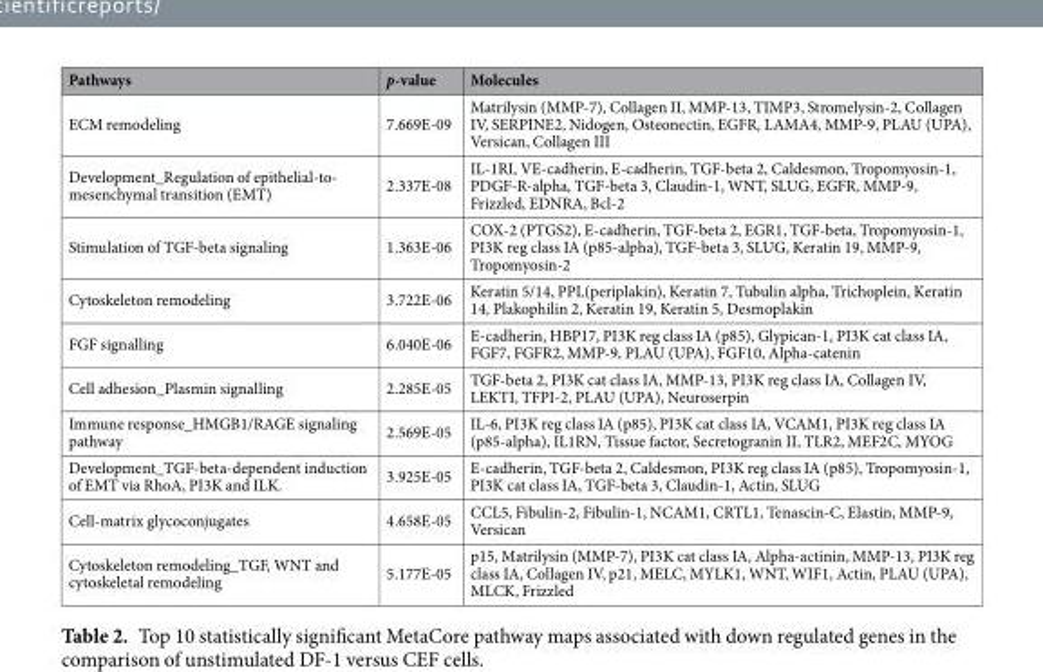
<table><thead><tr><td>Pathways</td><td>p-value</td><td>Molecules</td></tr></thead><tbody><tr><td>ECM remodeling</td><td>7.669E-09</td><td>Matrilysin (MMP-7), Collagen II, MMP-13, TIMP3, Stromelysin-2, Collagen IV, SERPINE2, Nidogen, Osteonectin, EGFR, LAMA4, MMP-9, PLAU (UPA), Versican, Collagen III</td></tr><tr><td>Development_Regulation of epithelial-to- mesenchymal transition (EMT)</td><td>2.337E-08</td><td>IL-1RI, VE-cadherin, E-cadherin, TGF-beta 2, Caldesmon, Tropomyosin-1, PDGF-R-alpha, TGF-beta 3, Claudin-1, WNT, SLUG, EGFR, MMP-9, Frizzled, EDNRA, Bcl-2</td></tr><tr><td>Stimulation of TGF-beta signaling</td><td>1.363E-06</td><td>COX-2 (PTGS2), E-cadherin, TGF-beta 2, EGR1, TGF-beta, Tropomyosin-1, PI3K reg class IA (p85-alpha), TGF-beta 3, SLUG, Keratin 19, MMP-9, Tropomyosin-2</td></tr><tr><td>Cytoskeleton remodeling</td><td>3.722E-06</td><td>Keratin 5/14, PPL(periplakin), Keratin 7, Tubulin alpha, Trichoplein, Keratin 14, Plakophilin 2, Keratin 19, Keratin 5, Desmoplakin</td></tr><tr><td>FGF signalling</td><td>6.040E-06</td><td>E-cadherin, HBP17, PI3K reg class IA (p85), Glypican-1, PI3K cat class IA, FGF7, FGFR2, MMP-9, PLAU (UPA), FGF10, Alpha-catenin</td></tr><tr><td>Cell adhesion_Plasmin signalling</td><td>2.285E-05</td><td>TGF-beta 2, PI3K cat class IA, MMP-13, PI3K reg class IA, Collagen IV, LEKTI, TFPI-2, PLAU (UPA), Neuroserpin</td></tr><tr><td>Immune response_HMGB1/RAGE signaling pathway</td><td>2.569E-05</td><td>IL-6, PI3K reg class IA (p85), PI3K cat class IA, VCAM1, PI3K reg class IA (p85-alpha), IL1RN, Tissue factor, Secretogranin II, TLR2, MEF2C, MYOG</td></tr><tr><td>Development_TGF-beta-dependent induction of EMT via RhoA, PI3K and ILK.</td><td>3.925E-05</td><td>E-cadherin, TGF-beta 2, Caldesmon, PI3K reg class IA (p85), Tropomyosin-1, PI3K cat class IA, TGF-beta 3, Claudin-1, Actin, SLUG</td></tr><tr><td>Cell-matrix glycoconjugates</td><td>4.658E-05</td><td>CCL5, Fibulin-2, Fibulin-1, NCAM1, CRTL1, Tenascin-C, Elastin, MMP-9, Versican</td></tr><tr><td>Cytoskeleton remodeling_TGF, WNT and cytoskeletal remodeling</td><td>5.177E-05</td><td>p15, Matrilysin (MMP-7), PI3K cat class IA, Alpha-actinin, MMP-13, PI3K reg class IA, Collagen IV, p21, MELC, MYLK1, WNT, WIF1, Actin, PLAU (UPA), MLCK, Frizzled</td></tr></tbody></table>